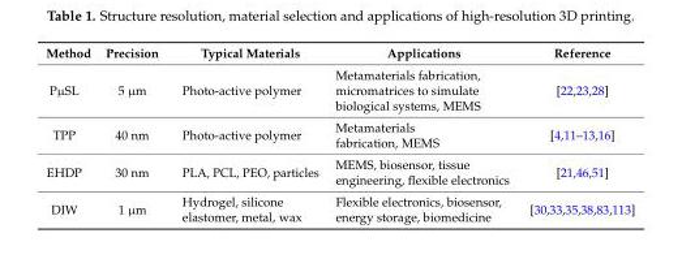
<table><thead><tr><td>Method</td><td>Precision</td><td>Typical Materials</td><td>Applications</td><td>Reference</td></tr></thead><tbody><tr><td>PµSL</td><td>5 µm</td><td>Photo-active polymer</td><td>Metamaterials fabrication, micromatrices to simulate biological systems, MEMS</td><td>[22,23,28]</td></tr><tr><td>TPP</td><td>40 nm</td><td>Photo-active polymer</td><td>Metamaterials fabrication, MEMS</td><td>[4,11–13,16]</td></tr><tr><td>EHDP</td><td>30 nm</td><td>PLA, PCL, PEO, particles</td><td>MEMS, biosensor, tissue engineering, flexible electronics</td><td>[21,46,51]</td></tr><tr><td>DIW</td><td>1 µm</td><td>Hydrogel, silicone elastomer, metal, wax</td><td>Flexible electronics, biosensor, energy storage, biomedicine</td><td>[30,33,35,38,83,113]</td></tr></tbody></table>